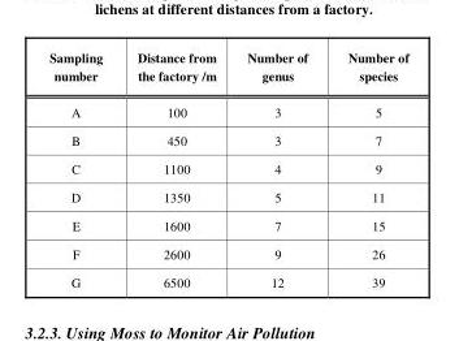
<table><thead><tr><td>Sampling number</td><td>Distance from the factory /m</td><td>Number of genus</td><td>Number of species</td></tr></thead><tbody><tr><td>A</td><td>100</td><td>3</td><td>5</td></tr><tr><td>B</td><td>450</td><td>3</td><td>7</td></tr><tr><td>C</td><td>1100</td><td>4</td><td>9</td></tr><tr><td>D</td><td>1350</td><td>5</td><td>11</td></tr><tr><td>E</td><td>1600</td><td>7</td><td>15</td></tr><tr><td>F</td><td>2600</td><td>9</td><td>26</td></tr><tr><td>G</td><td>6500</td><td>12</td><td>39</td></tr></tbody></table>